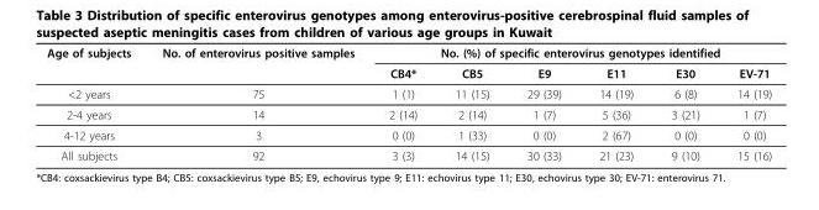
<table><thead><tr><td rowspan="2">Age of subjects</td><td rowspan="2">No. of enterovirus positive samples</td><td colspan="6">No. (%) of specific enterovirus genotypes identified</td></tr><tr><td>CB4*</td><td>CB5</td><td>E9</td><td>E11</td><td>E30</td><td>EV-71</td></tr></thead><tbody><tr><td>&lt;2 years</td><td>75</td><td>1 (1)</td><td>11 (15)</td><td>29 (39)</td><td>14 (19)</td><td>6 (8)</td><td>14 (19)</td></tr><tr><td>2-4 years</td><td>14</td><td>2 (14)</td><td>2 (14)</td><td>1 (7)</td><td>5 (36)</td><td>3 (21)</td><td>1 (7)</td></tr><tr><td>4-12 years</td><td>3</td><td>0 (0)</td><td>1 (33)</td><td>0 (0)</td><td>2 (67)</td><td>0 (0)</td><td>0 (0)</td></tr><tr><td>All subjects</td><td>92</td><td>3 (3)</td><td>14 (15)</td><td>30 (33)</td><td>21 (23)</td><td>9 (10)</td><td>15 (16)</td></tr></tbody></table>